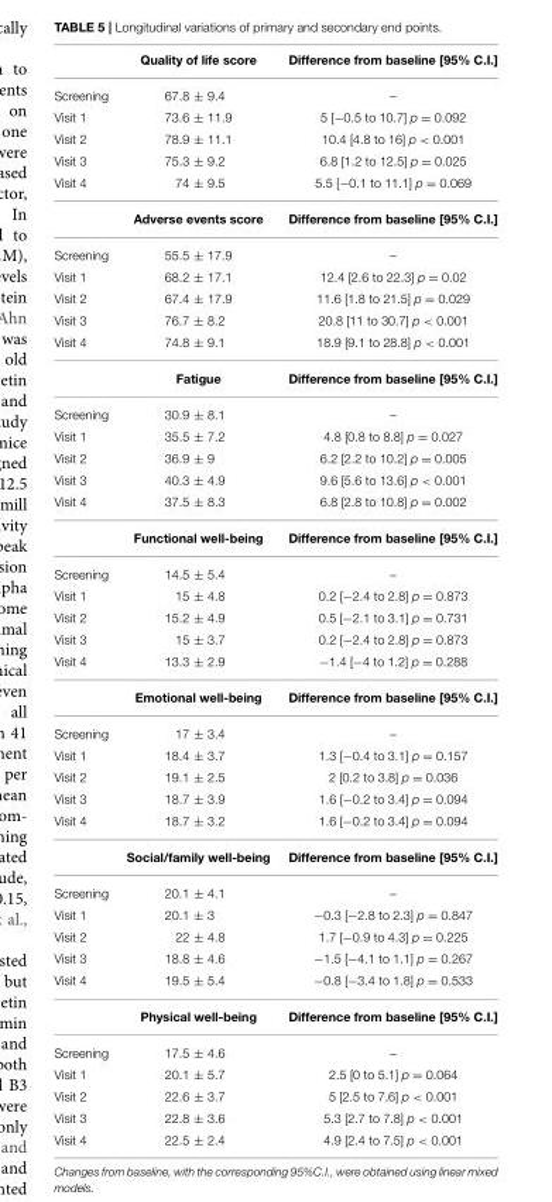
<table><thead><tr><td></td><td>Quality of life score</td><td>Difference from baseline [95% C.I.]</td></tr></thead><tbody><tr><td>Screening</td><td>67.8 ± 9.4</td><td>–</td></tr><tr><td>Visit 1</td><td>73.6 ± 11.9</td><td>5 [−0.5 to 10.7] p = 0.092</td></tr><tr><td>Visit 2</td><td>78.9 ± 11.1</td><td>10.4 [4.8 to 16] p &lt; 0.001</td></tr><tr><td>Visit 3</td><td>75.3 ± 9.2</td><td>6.8 [1.2 to 12.5] p = 0.025</td></tr><tr><td rowspan="2">Visit 4</td><td>74 ± 9.5</td><td>5.5 [−0.1 to 11.1] p = 0.069</td></tr><tr><td>Adverse events score</td><td>Difference from baseline [95% C.I.]</td></tr><tr><td>Screening</td><td>55.5 ± 17.9</td><td>–</td></tr><tr><td>Visit 1</td><td>68.2 ± 17.1</td><td>12.4 [2.6 to 22.3] p = 0.02</td></tr><tr><td>Visit 2</td><td>67.4 ± 17.9</td><td>11.6 [1.8 to 21.5] p = 0.029</td></tr><tr><td>Visit 3</td><td>76.7 ± 8.2</td><td>20.8 [11 to 30.7] p &lt; 0.001</td></tr><tr><td rowspan="2">Visit 4</td><td>74.8 ± 9.1</td><td>18.9 [9.1 to 28.8] p &lt; 0.001</td></tr><tr><td>Fatigue</td><td>Difference from baseline [95% C.I.]</td></tr><tr><td>Screening</td><td>30.9 ± 8.1</td><td>–</td></tr><tr><td>Visit 1</td><td>35.5 ± 7.2</td><td>4.8 [0.8 to 8.8] p = 0.027</td></tr><tr><td>Visit 2</td><td>36.9 ± 9</td><td>6.2 [2.2 to 10.2] p = 0.005</td></tr><tr><td>Visit 3</td><td>40.3 ± 4.9</td><td>9.6 [5.6 to 13.6] p &lt; 0.001</td></tr><tr><td rowspan="2">Visit 4</td><td>37.5 ± 8.3</td><td>6.8 [2.8 to 10.8] p = 0.002</td></tr><tr><td>Functional well-being</td><td>Difference from baseline [95% C.I.]</td></tr><tr><td>Screening</td><td>14.5 ± 5.4</td><td>–</td></tr><tr><td>Visit 1</td><td>15 ± 4.8</td><td>0.2 [−2.4 to 2.8] p = 0.873</td></tr><tr><td>Visit 2</td><td>15.2 ± 4.9</td><td>0.5 [−2.1 to 3.1] p = 0.731</td></tr><tr><td>Visit 3</td><td>15 ± 3.7</td><td>0.2 [−2.4 to 2.8] p = 0.873</td></tr><tr><td rowspan="2">Visit 4</td><td>13.3 ± 2.9</td><td>−1.4 [−4 to 1.2] p = 0.288</td></tr><tr><td>Emotional well-being</td><td>Difference from baseline [95% C.I.]</td></tr><tr><td>Screening</td><td>17 ± 3.4</td><td>–</td></tr><tr><td>Visit 1</td><td>18.4 ± 3.7</td><td>1.3 [−0.4 to 3.1] p = 0.157</td></tr><tr><td>Visit 2</td><td>19.1 ± 2.5</td><td>2 [0.2 to 3.8] p = 0.036</td></tr><tr><td>Visit 3</td><td>18.7 ± 3.9</td><td>1.6 [−0.2 to 3.4] p = 0.094</td></tr><tr><td rowspan="2">Visit 4</td><td>18.7 ± 3.2</td><td>1.6 [−0.2 to 3.4] p = 0.094</td></tr><tr><td>Social/family well-being</td><td>Difference from baseline [95% C.I.]</td></tr><tr><td>Screening</td><td>20.1 ± 4.1</td><td>–</td></tr><tr><td>Visit 1</td><td>20.1 ± 3</td><td>−0.3 [−2.8 to 2.3] p = 0.847</td></tr><tr><td>Visit 2</td><td>22 ± 4.8</td><td>1.7 [−0.9 to 4.3] p = 0.225</td></tr><tr><td>Visit 3</td><td>18.8 ± 4.6</td><td>−1.5 [−4.1 to 1.1] p = 0.267</td></tr><tr><td rowspan="2">Visit 4</td><td>19.5 ± 5.4</td><td>−0.8 [−3.4 to 1.8] p = 0.533</td></tr><tr><td>Physical well-being</td><td>Difference from baseline [95% C.I.]</td></tr><tr><td>Screening</td><td>17.5 ± 4.6</td><td>–</td></tr><tr><td>Visit 1</td><td>20.1 ± 5.7</td><td>2.5 [0 to 5.1] p = 0.064</td></tr><tr><td>Visit 2</td><td>22.6 ± 3.7</td><td>5 [2.5 to 7.6] p &lt; 0.001</td></tr><tr><td>Visit 3</td><td>22.8 ± 3.6</td><td>5.3 [2.7 to 7.8] p &lt; 0.001</td></tr><tr><td>Visit 4</td><td>22.5 ± 2.4</td><td>4.9 [2.4 to 7.5] p &lt; 0.001</td></tr></tbody></table>